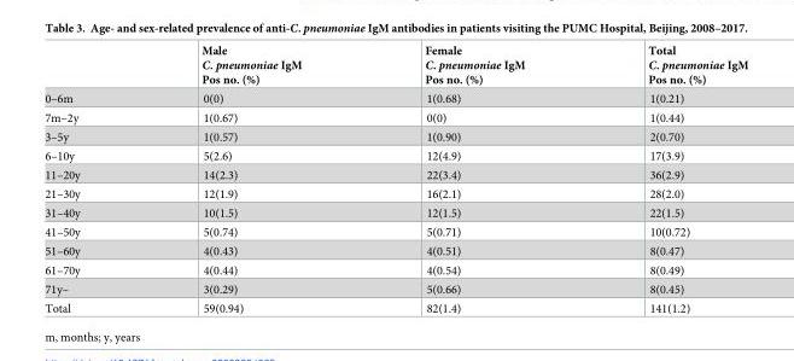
<table><thead><tr><td></td><td>Male C. pneumoniae IgM Pos no. (%)</td><td>Female C. pneumoniae IgM Pos no. (%)</td><td>Total C. pneumoniae IgM Pos no. (%)</td></tr></thead><tbody><tr><td>0–6m</td><td>0(0)</td><td>1(0.68)</td><td>1(0.21)</td></tr><tr><td>7m–2y</td><td>1(0.67)</td><td>0(0)</td><td>1(0.44)</td></tr><tr><td>3–5y</td><td>1(0.57)</td><td>1(0.90)</td><td>2(0.70)</td></tr><tr><td>6–10y</td><td>5(2.6)</td><td>12(4.9)</td><td>17(3.9)</td></tr><tr><td>11–20y</td><td>14(2.3)</td><td>22(3.4)</td><td>36(2.9)</td></tr><tr><td>21–30y</td><td>12(1.9)</td><td>16(2.1)</td><td>28(2.0)</td></tr><tr><td>31–40y</td><td>10(1.5)</td><td>12(1.5)</td><td>22(1.5)</td></tr><tr><td>41–50y</td><td>5(0.74)</td><td>5(0.71)</td><td>10(0.72)</td></tr><tr><td>51–60y</td><td>4(0.43)</td><td>4(0.51)</td><td>8(0.47)</td></tr><tr><td>61–70y</td><td>4(0.44)</td><td>4(0.54)</td><td>8(0.49)</td></tr><tr><td>71y–</td><td>3(0.29)</td><td>5(0.66)</td><td>8(0.45)</td></tr><tr><td>Total</td><td>59(0.94)</td><td>82(1.4)</td><td>141(1.2)</td></tr></tbody></table>